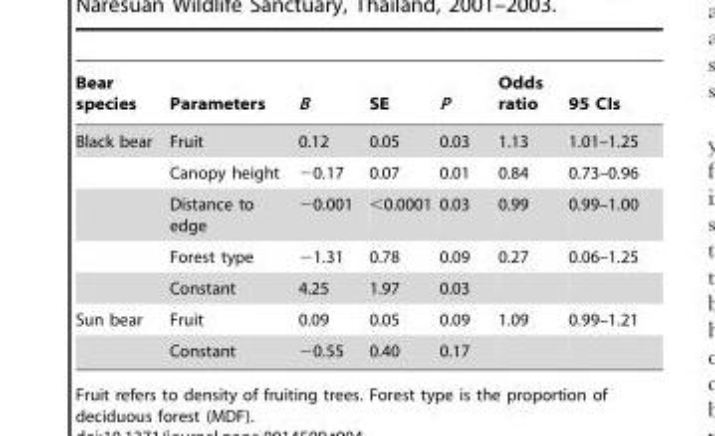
<table><thead><tr><td>Bear species</td><td>Parameters</td><td>B</td><td>SE</td><td>P</td><td>Odds ratio</td><td>95 CIs</td></tr></thead><tbody><tr><td rowspan="5">Black bear</td><td>Fruit</td><td>0.12</td><td>0.05</td><td>0.03</td><td>1.13</td><td>1.01–1.25</td></tr><tr><td>Canopy height</td><td>−0.17</td><td>0.07</td><td>0.01</td><td>0.84</td><td>0.73–0.96</td></tr><tr><td>Distance to edge</td><td>−0.001</td><td>&lt;0.0001</td><td>0.03</td><td>0.99</td><td>0.99–1.00</td></tr><tr><td>Forest type</td><td>−1.31</td><td>0.78</td><td>0.09</td><td>0.27</td><td>0.06–1.25</td></tr><tr><td>Constant</td><td>4.25</td><td>1.97</td><td>0.03</td><td></td><td></td></tr><tr><td rowspan="2">Sun bear</td><td>Fruit</td><td>0.09</td><td>0.05</td><td>0.09</td><td>1.09</td><td>0.99–1.21</td></tr><tr><td>Constant</td><td>−0.55</td><td>0.40</td><td>0.17</td><td></td><td></td></tr></tbody></table>